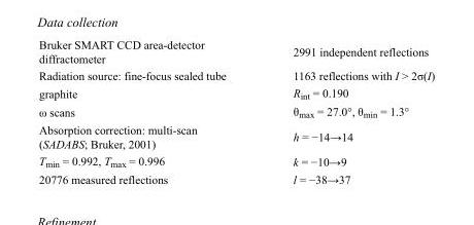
<table><tbody><tr><td>Bruker SMART CCD area-detector diffractometer</td><td>2991 independent reflections</td></tr><tr><td>Radiation source: fine-focus sealed tube</td><td>1163 reflections with I &gt; 2σ(I)</td></tr><tr><td>graphite</td><td>R<sub>int</sub> = 0.190</td></tr><tr><td>ω scans</td><td>θ<sub>max</sub> = 27.0°, θ<sub>min</sub> = 1.3°</td></tr><tr><td>Absorption correction: multi-scan (SADABS; Bruker, 2001)</td><td>h = −14→14</td></tr><tr><td>T<sub>min</sub> = 0.992, T<sub>max</sub> = 0.996</td><td>k = −10→9</td></tr><tr><td>20776 measured reflections</td><td>l = −38→37</td></tr></tbody></table>